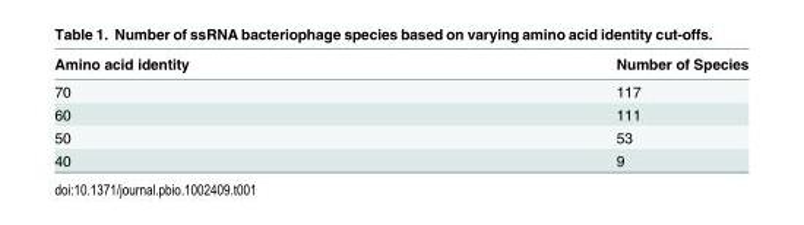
<table><thead><tr><td>Amino acid identity</td><td>Number of Species</td></tr></thead><tbody><tr><td>70</td><td>117</td></tr><tr><td>60</td><td>111</td></tr><tr><td>50</td><td>53</td></tr><tr><td>40</td><td>9</td></tr></tbody></table>